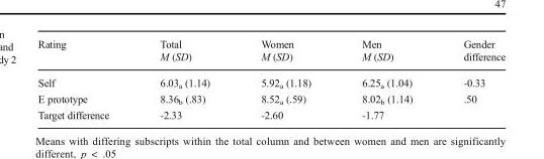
<table><thead><tr><td>Rating</td><td>Total M (SD)</td><td>Women M (SD)</td><td>Men M (SD)</td><td>Gender difference</td></tr></thead><tbody><tr><td>Self</td><td>6.03<sub>a</sub> (1.14)</td><td>5.92<sub>a</sub> (1.18)</td><td>6.25<sub>a</sub> (1.04)</td><td>-0.33</td></tr><tr><td>E prototype</td><td>8.36<sub>b</sub> (.83)</td><td>8.52<sub>a</sub> (.59)</td><td>8.02<sub>b</sub> (1.14)</td><td>.50</td></tr><tr><td>Target difference</td><td>-2.33</td><td>-2.60</td><td>-1.77</td><td></td></tr></tbody></table>